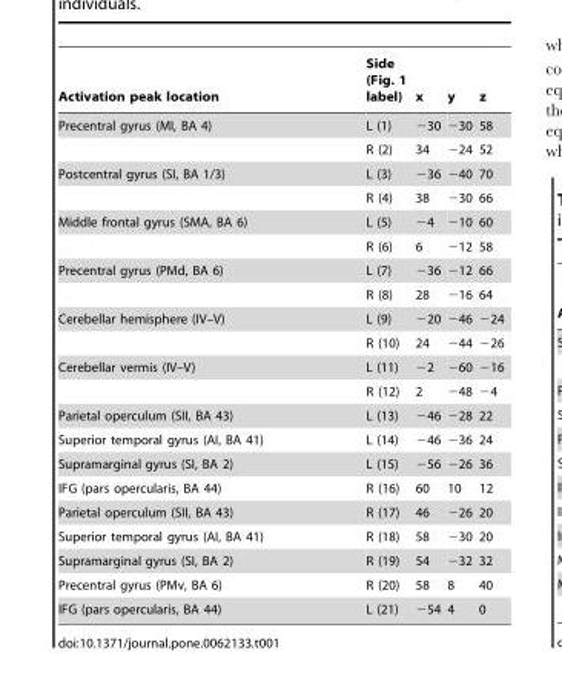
<table><thead><tr><td>Activation peak location</td><td>Side (Fig. 1 label)</td><td>x</td><td>y</td><td>z</td></tr></thead><tbody><tr><td rowspan="2">Precentral gyrus (MI, BA 4)</td><td>L (1)</td><td>−30</td><td>−30</td><td>58</td></tr><tr><td>R (2)</td><td>34</td><td>−24</td><td>52</td></tr><tr><td rowspan="2">Postcentral gyrus (SI, BA 1/3)</td><td>L (3)</td><td>−36</td><td>−40</td><td>70</td></tr><tr><td>R (4)</td><td>38</td><td>−30</td><td>66</td></tr><tr><td rowspan="2">Middle frontal gyrus (SMA, BA 6)</td><td>L (5)</td><td>−4</td><td>−10</td><td>60</td></tr><tr><td>R (6)</td><td>6</td><td>−12</td><td>58</td></tr><tr><td rowspan="2">Precentral gyrus (PMd, BA 6)</td><td>L (7)</td><td>−36</td><td>−12</td><td>66</td></tr><tr><td>R (8)</td><td>28</td><td>−16</td><td>64</td></tr><tr><td rowspan="2">Cerebellar hemisphere (IV–V)</td><td>L (9)</td><td>−20</td><td>−46</td><td>−24</td></tr><tr><td>R (10)</td><td>24</td><td>−44</td><td>−26</td></tr><tr><td rowspan="2">Cerebellar vermis (IV–V)</td><td>L (11)</td><td>−2</td><td>−60</td><td>−16</td></tr><tr><td>R (12)</td><td>2</td><td>−48</td><td>−4</td></tr><tr><td>Parietal operculum (SII, BA 43)</td><td>L (13)</td><td>−46</td><td>−28</td><td>22</td></tr><tr><td>Superior temporal gyrus (AI, BA 41)</td><td>L (14)</td><td>−46</td><td>−36</td><td>24</td></tr><tr><td>Supramarginal gyrus (SI, BA 2)</td><td>L (15)</td><td>−56</td><td>−26</td><td>36</td></tr><tr><td>IFG (pars opercularis, BA 44)</td><td>R (16)</td><td>60</td><td>10</td><td>12</td></tr><tr><td>Parietal operculum (SII, BA 43)</td><td>R (17)</td><td>46</td><td>−26</td><td>20</td></tr><tr><td>Superior temporal gyrus (AI, BA 41)</td><td>R (18)</td><td>58</td><td>−30</td><td>20</td></tr><tr><td>Supramarginal gyrus (SI, BA 2)</td><td>R (19)</td><td>54</td><td>−32</td><td>32</td></tr><tr><td>Precentral gyrus (PMv, BA 6)</td><td>R (20)</td><td>58</td><td>8</td><td>40</td></tr><tr><td>IFG (pars opercularis, BA 44)</td><td>L (21)</td><td>−54</td><td>4</td><td>0</td></tr></tbody></table>